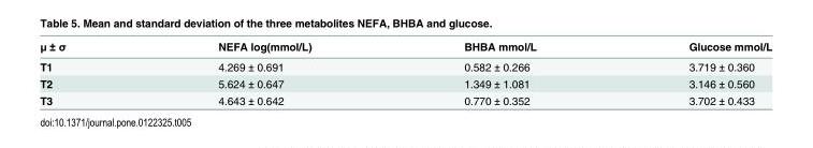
<table><thead><tr><td>μ ± σ</td><td>NEFA log(mmol/L)</td><td>BHBA mmol/L</td><td>Glucose mmol/L</td></tr></thead><tbody><tr><td>T1</td><td>4.269 ± 0.691</td><td>0.582 ± 0.266</td><td>3.719 ± 0.360</td></tr><tr><td>T2</td><td>5.624 ± 0.647</td><td>1.349 ± 1.081</td><td>3.146 ± 0.560</td></tr><tr><td>T3</td><td>4.643 ± 0.642</td><td>0.770 ± 0.352</td><td>3.702 ± 0.433</td></tr></tbody></table>